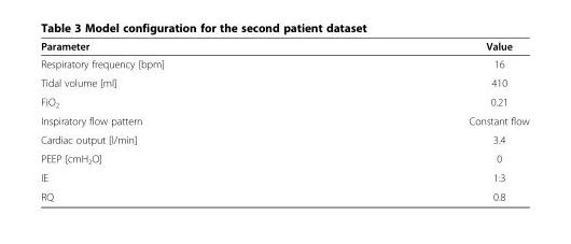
<table><thead><tr><td>Parameter</td><td>Value</td></tr></thead><tbody><tr><td>Respiratory frequency [bpm]</td><td>16</td></tr><tr><td>Tidal volume [ml]</td><td>410</td></tr><tr><td>FiO<sub>2</sub></td><td>0.21</td></tr><tr><td>Inspiratory flow pattern</td><td>Constant flow</td></tr><tr><td>Cardiac output [l/min]</td><td>3.4</td></tr><tr><td>PEEP [cmH<sub>2</sub>O]</td><td>0</td></tr><tr><td>IE</td><td>1:3</td></tr><tr><td>RQ</td><td>0.8</td></tr></tbody></table>